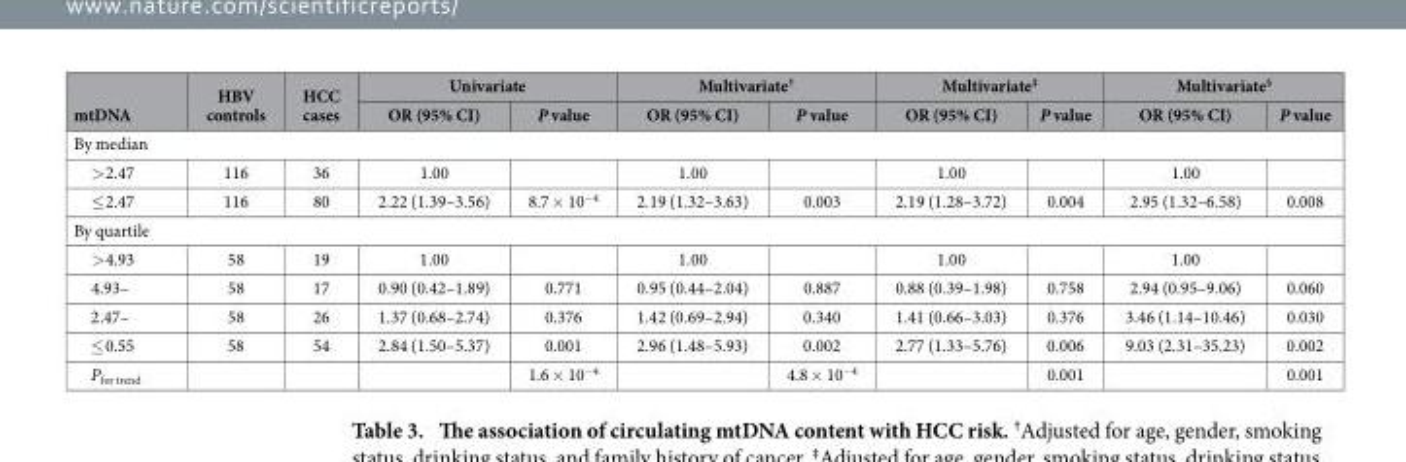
<table><thead><tr><td rowspan="2">mtDNA</td><td rowspan="2">HBV controls</td><td rowspan="2">HCC cases</td><td colspan="2">Univariate</td><td colspan="2">Multivariate†</td><td colspan="2">Multivariate‡</td><td colspan="2">Multivariate§</td></tr><tr><td>OR (95% CI)</td><td>P value</td><td>OR (95% CI)</td><td>P value</td><td>OR (95% CI)</td><td>P value</td><td>OR (95% CI)</td><td>P value</td></tr></thead><tbody><tr><td colspan="11">By median</td></tr><tr><td>&gt; 2.47</td><td>116</td><td>36</td><td>1.00</td><td></td><td>1.00</td><td></td><td>1.00</td><td></td><td>1.00</td><td></td></tr><tr><td>≤ 2.47</td><td>116</td><td>80</td><td>2.22 (1.39–3.56)</td><td>8.7 × 10<sup>−4</sup></td><td>2.19 (1.32–3.63)</td><td>0.003</td><td>2.19 (1.28–3.72)</td><td>0.004</td><td>2.95 (1.32–6.58)</td><td>0.008</td></tr><tr><td colspan="11">By quartile</td></tr><tr><td>&gt; 4.93</td><td>58</td><td>19</td><td>1.00</td><td></td><td>1.00</td><td></td><td>1.00</td><td></td><td>1.00</td><td></td></tr><tr><td>4.93–</td><td>58</td><td>17</td><td>0.90 (0.42–1.89)</td><td>0.771</td><td>0.95 (0.44–2.04)</td><td>0.887</td><td>0.88 (0.39–1.98)</td><td>0.758</td><td>2.94 (0.95–9.06)</td><td>0.060</td></tr><tr><td>2.47–</td><td>58</td><td>26</td><td>1.37 (0.68–2.74)</td><td>0.376</td><td>1.42 (0.69–2.94)</td><td>0.340</td><td>1.41 (0.66–3.03)</td><td>0.376</td><td>3.46 (1.14–10.46)</td><td>0.030</td></tr><tr><td>≤ 0.55</td><td>58</td><td>54</td><td>2.84 (1.50–5.37)</td><td>0.001</td><td>2.96 (1.48–5.93)</td><td>0.002</td><td>2.77 (1.33–5.76)</td><td>0.006</td><td>9.03 (2.31–35.23)</td><td>0.002</td></tr><tr><td>P<sub>for trend</sub></td><td></td><td></td><td></td><td>1.6 × 10<sup>−4</sup></td><td></td><td>4.8 × 10<sup>−4</sup></td><td></td><td>0.001</td><td></td><td>0.001</td></tr></tbody></table>